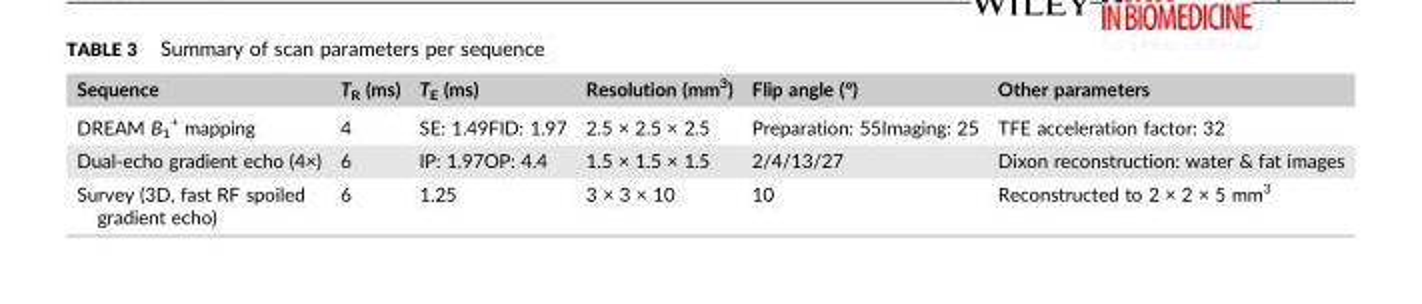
<table><thead><tr><td>Sequence</td><td>T<sub>R</sub> (ms)</td><td>T<sub>E</sub> (ms)</td><td>Resolution (mm<sup>3</sup>)</td><td>Flip angle (°)</td><td>Other parameters</td></tr></thead><tbody><tr><td>DREAM B<sub>1</sub> <sup>+</sup> mapping</td><td>4</td><td>SE: 1.49FID: 1.97</td><td>2.5 × 2.5 × 2.5</td><td>Preparation: 55Imaging: 25</td><td>TFE acceleration factor: 32</td></tr><tr><td>Dual‐echo gradient echo (4×)</td><td>6</td><td>IP: 1.97OP: 4.4</td><td>1.5 × 1.5 × 1.5</td><td>2/4/13/27</td><td>Dixon reconstruction: water &amp; fat images</td></tr><tr><td>Survey (3D, fast RF spoiled gradient echo)</td><td>6</td><td>1.25</td><td>3 × 3 × 10</td><td>10</td><td>Reconstructed to 2 × 2 × 5 mm<sup>3</sup></td></tr></tbody></table>